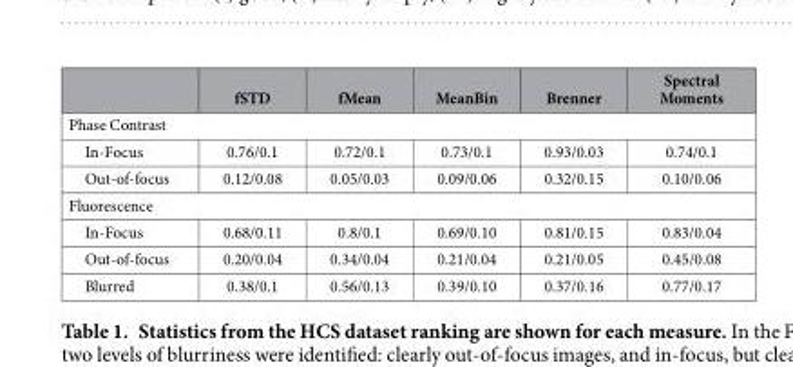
<table><thead><tr><td></td><td>fSTD</td><td>fMean</td><td>MeanBin</td><td>Brenner</td><td>Spectral Moments</td></tr></thead><tbody><tr><td colspan="6">Phase Contrast</td></tr><tr><td>In-Focus</td><td>0.76/0.1</td><td>0.72/0.1</td><td>0.73/0.1</td><td>0.93/0.03</td><td>0.74/0.1</td></tr><tr><td>Out-of-focus</td><td>0.12/0.08</td><td>0.05/0.03</td><td>0.09/0.06</td><td>0.32/0.15</td><td>0.10/0.06</td></tr><tr><td colspan="6">Fluorescence</td></tr><tr><td>In-Focus</td><td>0.68/0.11</td><td>0.8/0.1</td><td>0.69/0.10</td><td>0.81/0.15</td><td>0.83/0.04</td></tr><tr><td>Out-of-focus</td><td>0.20/0.04</td><td>0.34/0.04</td><td>0.21/0.04</td><td>0.21/0.05</td><td>0.45/0.08</td></tr><tr><td>Blurred</td><td>0.38/0.1</td><td>0.56/0.13</td><td>0.39/0.10</td><td>0.37/0.16</td><td>0.77/0.17</td></tr></tbody></table>